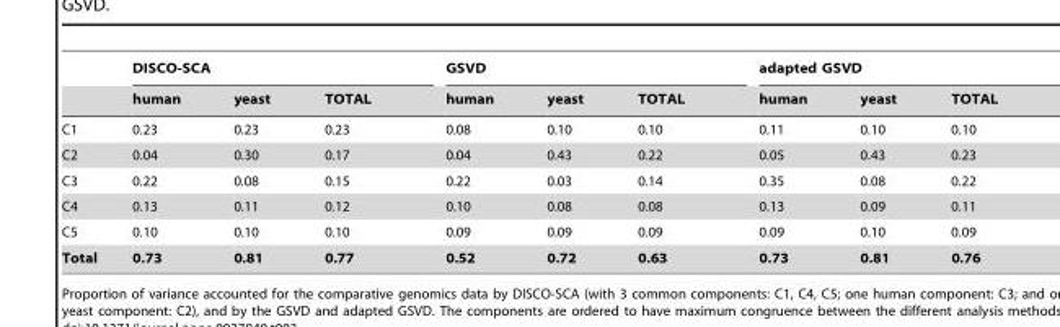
<table><thead><tr><td rowspan="2"></td><td colspan="3">DISCO-SCA</td><td colspan="3">GSVD</td><td colspan="3">adapted GSVD</td></tr><tr><td>human</td><td>yeast</td><td>TOTAL</td><td>human</td><td>yeast</td><td>TOTAL</td><td>human</td><td>yeast</td><td>TOTAL</td></tr></thead><tbody><tr><td>C1</td><td>0.23</td><td>0.23</td><td>0.23</td><td>0.08</td><td>0.10</td><td>0.10</td><td>0.11</td><td>0.10</td><td>0.10</td></tr><tr><td>C2</td><td>0.04</td><td>0.30</td><td>0.17</td><td>0.04</td><td>0.43</td><td>0.22</td><td>0.05</td><td>0.43</td><td>0.23</td></tr><tr><td>C3</td><td>0.22</td><td>0.08</td><td>0.15</td><td>0.22</td><td>0.03</td><td>0.14</td><td>0.35</td><td>0.08</td><td>0.22</td></tr><tr><td>C4</td><td>0.13</td><td>0.11</td><td>0.12</td><td>0.10</td><td>0.08</td><td>0.08</td><td>0.13</td><td>0.09</td><td>0.11</td></tr><tr><td>C5</td><td>0.10</td><td>0.10</td><td>0.10</td><td>0.09</td><td>0.09</td><td>0.09</td><td>0.09</td><td>0.10</td><td>0.09</td></tr><tr><td>Total</td><td>0.73</td><td>0.81</td><td>0.77</td><td>0.52</td><td>0.72</td><td>0.63</td><td>0.73</td><td>0.81</td><td>0.76</td></tr></tbody></table>